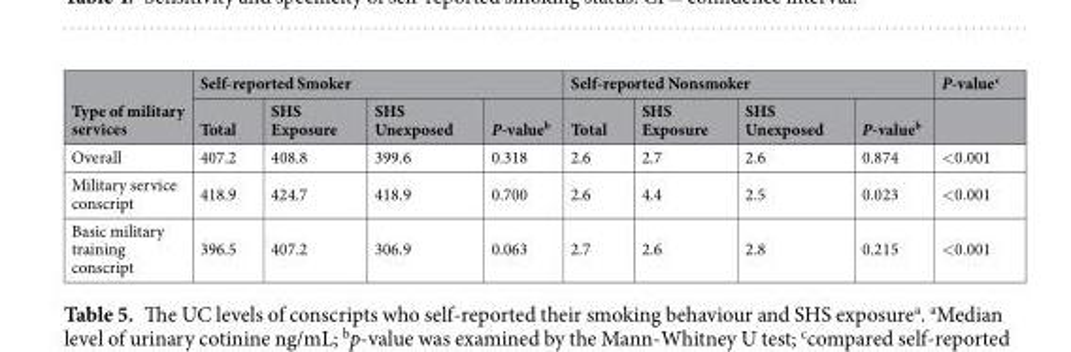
<table><thead><tr><td rowspan="2">Type of military services</td><td colspan="4">Self-reported Smoker</td><td colspan="4">Self-reported Nonsmoker</td><td rowspan="2">P-value<sup>c</sup></td></tr><tr><td>Total</td><td>SHS Exposure</td><td>SHS Unexposed</td><td>P-value<sup>b</sup></td><td>Total</td><td>SHS Exposure</td><td>SHS Unexposed</td><td>P-value<sup>b</sup></td></tr></thead><tbody><tr><td>Overall</td><td>407.2</td><td>408.8</td><td>399.6</td><td>0.318</td><td>2.6</td><td>2.7</td><td>2.6</td><td>0.874</td><td>&lt;0.001</td></tr><tr><td>Military service conscript</td><td>418.9</td><td>424.7</td><td>418.9</td><td>0.700</td><td>2.6</td><td>4.4</td><td>2.5</td><td>0.023</td><td>&lt;0.001</td></tr><tr><td>Basic military training conscript</td><td>396.5</td><td>407.2</td><td>306.9</td><td>0.063</td><td>2.7</td><td>2.6</td><td>2.8</td><td>0.215</td><td>&lt;0.001</td></tr></tbody></table>